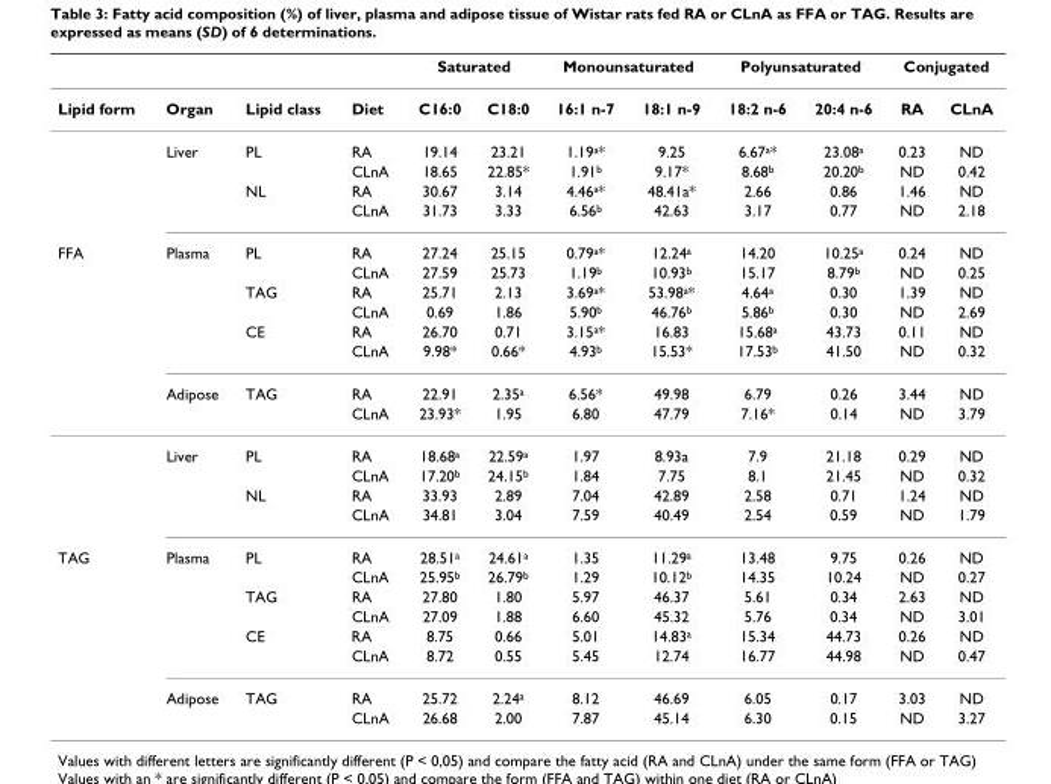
<table><thead><tr><td rowspan="2">Lipid form</td><td rowspan="2">Organ</td><td rowspan="2">Lipid class</td><td rowspan="2">Diet</td><td colspan="2">Saturated</td><td colspan="2">Monounsaturated</td><td colspan="2">Polyunsaturated</td><td colspan="2">Conjugated</td></tr><tr><td>C16:0</td><td>C18:0</td><td>16:1 n-7</td><td>18:1 n-9</td><td>18:2 n-6</td><td>20:4 n-6</td><td>RA</td><td>CLnA</td></tr></thead><tbody><tr><td></td><td>Liver</td><td>PL</td><td>RA</td><td>19.14</td><td>23.21</td><td>1.19<sup>a</sup>*</td><td>9.25</td><td>6.67<sup>a</sup>*</td><td>23.08<sup>a</sup></td><td>0.23</td><td>ND</td></tr><tr><td></td><td></td><td></td><td>CLnA</td><td>18.65</td><td>22.85*</td><td>1.91<sup>b</sup></td><td>9.17*</td><td>8.68<sup>b</sup></td><td>20.20<sup>b</sup></td><td>ND</td><td>0.42</td></tr><tr><td></td><td></td><td>NL</td><td>RA</td><td>30.67</td><td>3.14</td><td>4.46<sup>a</sup>*</td><td>48.41a*</td><td>2.66</td><td>0.86</td><td>1.46</td><td>ND</td></tr><tr><td></td><td></td><td></td><td>CLnA</td><td>31.73</td><td>3.33</td><td>6.56<sup>b</sup></td><td>42.63</td><td>3.17</td><td>0.77</td><td>ND</td><td>2.18</td></tr><tr><td rowspan="12">FFA</td><td>Plasma</td><td>PL</td><td>RA</td><td>27.24</td><td>25.15</td><td>0.79<sup>a</sup>*</td><td>12.24<sup>a</sup></td><td>14.20</td><td>10.25<sup>a</sup></td><td>0.24</td><td>ND</td></tr><tr><td></td><td></td><td>CLnA</td><td>27.59</td><td>25.73</td><td>1.19<sup>b</sup></td><td>10.93<sup>b</sup></td><td>15.17</td><td>8.79<sup>b</sup></td><td>ND</td><td>0.25</td></tr><tr><td></td><td>TAG</td><td>RA</td><td>25.71</td><td>2.13</td><td>3.69<sup>a</sup>*</td><td>53.98<sup>a</sup>*</td><td>4.64<sup>a</sup></td><td>0.30</td><td>1.39</td><td>ND</td></tr><tr><td></td><td></td><td>CLnA</td><td>0.69</td><td>1.86</td><td>5.90<sup>b</sup></td><td>46.76<sup>b</sup></td><td>5.86<sup>b</sup></td><td>0.30</td><td>ND</td><td>2.69</td></tr><tr><td></td><td>CE</td><td>RA</td><td>26.70</td><td>0.71</td><td>3.15<sup>a</sup>*</td><td>16.83</td><td>15.68<sup>a</sup></td><td>43.73</td><td>0.11</td><td>ND</td></tr><tr><td></td><td></td><td>CLnA</td><td>9.98*</td><td>0.66*</td><td>4.93<sup>b</sup></td><td>15.53*</td><td>17.53<sup>b</sup></td><td>41.50</td><td>ND</td><td>0.32</td></tr><tr><td>Adipose</td><td>TAG</td><td>RA</td><td>22.91</td><td>2.35<sup>a</sup></td><td>6.56*</td><td>49.98</td><td>6.79</td><td>0.26</td><td>3.44</td><td>ND</td></tr><tr><td></td><td></td><td>CLnA</td><td>23.93*</td><td>1.95</td><td>6.80</td><td>47.79</td><td>7.16*</td><td>0.14</td><td>ND</td><td>3.79</td></tr><tr><td>Liver</td><td>PL</td><td>RA</td><td>18.68<sup>a</sup></td><td>22.59<sup>a</sup></td><td>1.97</td><td>8.93a</td><td>7.9</td><td>21.18</td><td>0.29</td><td>ND</td></tr><tr><td></td><td></td><td>CLnA</td><td>17.20<sup>b</sup></td><td>24.15<sup>b</sup></td><td>1.84</td><td>7.75</td><td>8.1</td><td>21.45</td><td>ND</td><td>0.32</td></tr><tr><td></td><td>NL</td><td>RA</td><td>33.93</td><td>2.89</td><td>7.04</td><td>42.89</td><td>2.58</td><td>0.71</td><td>1.24</td><td>ND</td></tr><tr><td></td><td></td><td>CLnA</td><td>34.81</td><td>3.04</td><td>7.59</td><td>40.49</td><td>2.54</td><td>0.59</td><td>ND</td><td>1.79</td></tr><tr><td rowspan="8">TAG</td><td>Plasma</td><td>PL</td><td>RA</td><td>28.51<sup>a</sup></td><td>24.61<sup>a</sup></td><td>1.35</td><td>11.29<sup>a</sup></td><td>13.48</td><td>9.75</td><td>0.26</td><td>ND</td></tr><tr><td></td><td></td><td>CLnA</td><td>25.95<sup>b</sup></td><td>26.79<sup>b</sup></td><td>1.29</td><td>10.12<sup>b</sup></td><td>14.35</td><td>10.24</td><td>ND</td><td>0.27</td></tr><tr><td></td><td>TAG</td><td>RA</td><td>27.80</td><td>1.80</td><td>5.97</td><td>46.37</td><td>5.61</td><td>0.34</td><td>2.63</td><td>ND</td></tr><tr><td></td><td></td><td>CLnA</td><td>27.09</td><td>1.88</td><td>6.60</td><td>45.32</td><td>5.76</td><td>0.34</td><td>ND</td><td>3.01</td></tr><tr><td></td><td>CE</td><td>RA</td><td>8.75</td><td>0.66</td><td>5.01</td><td>14.83<sup>a</sup></td><td>15.34</td><td>44.73</td><td>0.26</td><td>ND</td></tr><tr><td></td><td></td><td>CLnA</td><td>8.72</td><td>0.55</td><td>5.45</td><td>12.74</td><td>16.77</td><td>44.98</td><td>ND</td><td>0.47</td></tr><tr><td>Adipose</td><td>TAG</td><td>RA</td><td>25.72</td><td>2.24<sup>a</sup></td><td>8.12</td><td>46.69</td><td>6.05</td><td>0.17</td><td>3.03</td><td>ND</td></tr><tr><td></td><td></td><td>CLnA</td><td>26.68</td><td>2.00</td><td>7.87</td><td>45.14</td><td>6.30</td><td>0.15</td><td>ND</td><td>3.27</td></tr></tbody></table>